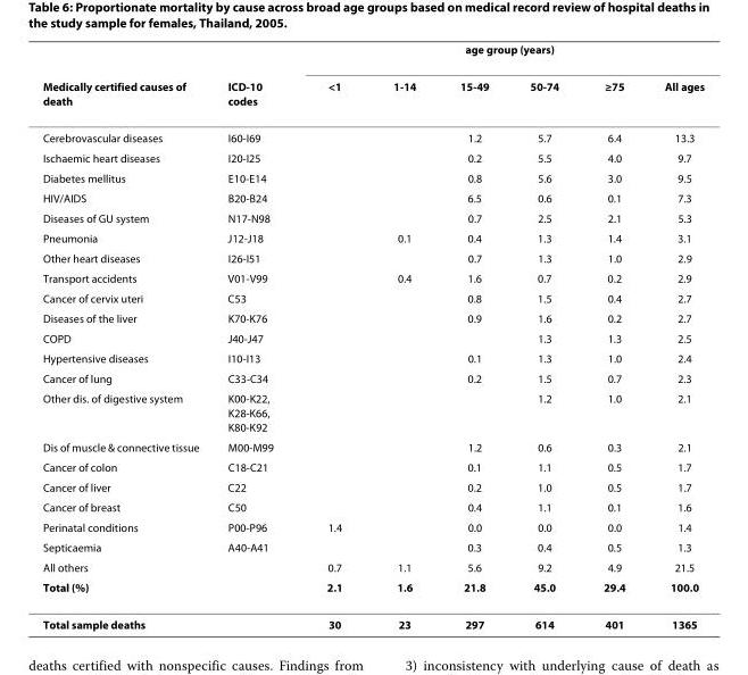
<table><thead><tr><td rowspan="2">Medically certified causes of death</td><td rowspan="2">ICD-10 codes</td><td colspan="6">age group (years)</td></tr><tr><td>&lt;1</td><td>1-14</td><td>15-49</td><td>50-74</td><td>≥75</td><td>All ages</td></tr></thead><tbody><tr><td>Cerebrovascular diseases</td><td>I60-I69</td><td></td><td></td><td>1.2</td><td>5.7</td><td>6.4</td><td>13.3</td></tr><tr><td>Ischaemic heart diseases</td><td>I20-I25</td><td></td><td></td><td>0.2</td><td>5.5</td><td>4.0</td><td>9.7</td></tr><tr><td>Diabetes mellitus</td><td>E10-E14</td><td></td><td></td><td>0.8</td><td>5.6</td><td>3.0</td><td>9.5</td></tr><tr><td>HIV/AIDS</td><td>B20-B24</td><td></td><td></td><td>6.5</td><td>0.6</td><td>0.1</td><td>7.3</td></tr><tr><td>Diseases of GU system</td><td>N17-N98</td><td></td><td></td><td>0.7</td><td>2.5</td><td>2.1</td><td>5.3</td></tr><tr><td>Pneumonia</td><td>J12-J18</td><td></td><td>0.1</td><td>0.4</td><td>1.3</td><td>1.4</td><td>3.1</td></tr><tr><td>Other heart diseases</td><td>I26-I51</td><td></td><td></td><td>0.7</td><td>1.3</td><td>1.0</td><td>2.9</td></tr><tr><td>Transport accidents</td><td>V01-V99</td><td></td><td>0.4</td><td>1.6</td><td>0.7</td><td>0.2</td><td>2.9</td></tr><tr><td>Cancer of cervix uteri</td><td>C53</td><td></td><td></td><td>0.8</td><td>1.5</td><td>0.4</td><td>2.7</td></tr><tr><td>Diseases of the liver</td><td>K70-K76</td><td></td><td></td><td>0.9</td><td>1.6</td><td>0.2</td><td>2.7</td></tr><tr><td>COPD</td><td>J40-J47</td><td></td><td></td><td></td><td>1.3</td><td>1.3</td><td>2.5</td></tr><tr><td>Hypertensive diseases</td><td>I10-I13</td><td></td><td></td><td>0.1</td><td>1.3</td><td>1.0</td><td>2.4</td></tr><tr><td>Cancer of lung</td><td>C33-C34</td><td></td><td></td><td>0.2</td><td>1.5</td><td>0.7</td><td>2.3</td></tr><tr><td>Other dis. of digestive system</td><td>K00-K22, K28-K66, K80-K92</td><td></td><td></td><td></td><td>1.2</td><td>1.0</td><td>2.1</td></tr><tr><td>Dis of muscle &amp; connective tissue</td><td>M00-M99</td><td></td><td></td><td>1.2</td><td>0.6</td><td>0.3</td><td>2.1</td></tr><tr><td>Cancer of colon</td><td>C18-C21</td><td></td><td></td><td>0.1</td><td>1.1</td><td>0.5</td><td>1.7</td></tr><tr><td>Cancer of liver</td><td>C22</td><td></td><td></td><td>0.2</td><td>1.0</td><td>0.5</td><td>1.7</td></tr><tr><td>Cancer of breast</td><td>C50</td><td></td><td></td><td>0.4</td><td>1.1</td><td>0.1</td><td>1.6</td></tr><tr><td>Perinatal conditions</td><td>P00-P96</td><td>1.4</td><td></td><td>0.0</td><td>0.0</td><td>0.0</td><td>1.4</td></tr><tr><td>Septicaemia</td><td>A40-A41</td><td></td><td></td><td>0.3</td><td>0.4</td><td>0.5</td><td>1.3</td></tr><tr><td>All others</td><td></td><td>0.7</td><td>1.1</td><td>5.6</td><td>9.2</td><td>4.9</td><td>21.5</td></tr><tr><td>Total (%)</td><td></td><td>2.1</td><td>1.6</td><td>21.8</td><td>45.0</td><td>29.4</td><td>100.0</td></tr><tr><td>Total sample deaths</td><td></td><td>30</td><td>23</td><td>297</td><td>614</td><td>401</td><td>1365</td></tr></tbody></table>